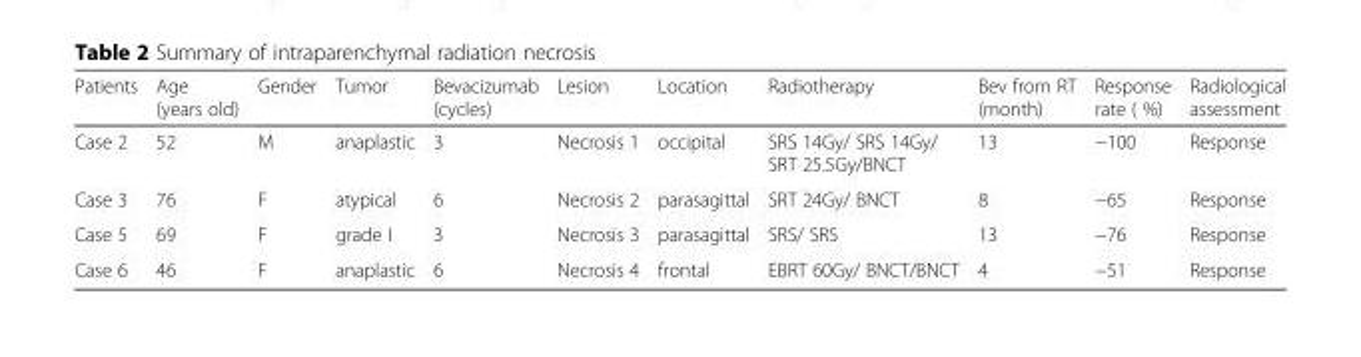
<table><thead><tr><td>Patients</td><td>Age (years old)</td><td>Gender</td><td>Tumor</td><td>Bevacizumab (cycles)</td><td>Lesion</td><td>Location</td><td>Radiotherapy</td><td>Bev from RT (month)</td><td>Response rate ( %)</td><td>Radiological assessment</td></tr></thead><tbody><tr><td>Case 2</td><td>52</td><td>M</td><td>anaplastic</td><td>3</td><td>Necrosis 1</td><td>occipital</td><td>SRS 14Gy/ SRS 14Gy/ SRT 25.5Gy/BNCT</td><td>13</td><td>−100</td><td>Response</td></tr><tr><td>Case 3</td><td>76</td><td>F</td><td>atypical</td><td>6</td><td>Necrosis 2</td><td>parasagittal</td><td>SRT 24Gy/ BNCT</td><td>8</td><td>−65</td><td>Response</td></tr><tr><td>Case 5</td><td>69</td><td>F</td><td>grade I</td><td>3</td><td>Necrosis 3</td><td>parasagittal</td><td>SRS/ SRS</td><td>13</td><td>−76</td><td>Response</td></tr><tr><td>Case 6</td><td>46</td><td>F</td><td>anaplastic</td><td>6</td><td>Necrosis 4</td><td>frontal</td><td>EBRT 60Gy/ BNCT/BNCT</td><td>4</td><td>−51</td><td>Response</td></tr></tbody></table>